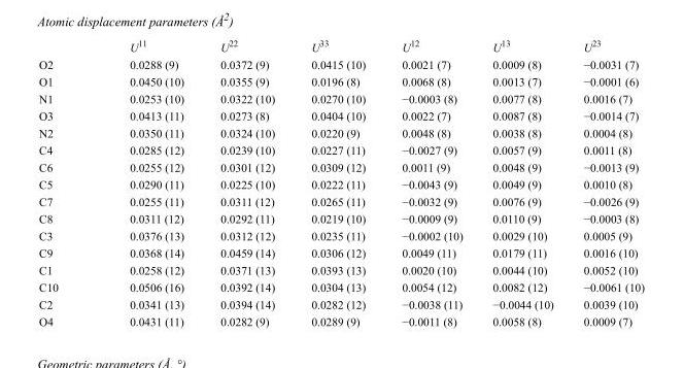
<table><thead><tr><td></td><td>U<sup>11</sup></td><td>U<sup>22</sup></td><td>U<sup>33</sup></td><td>U<sup>12</sup></td><td>U<sup>13</sup></td><td>U<sup>23</sup></td></tr></thead><tbody><tr><td>O2</td><td>0.0288 (9)</td><td>0.0372 (9)</td><td>0.0415 (10)</td><td>0.0021 (7)</td><td>0.0009 (8)</td><td>−0.0031 (7)</td></tr><tr><td>O1</td><td>0.0450 (10)</td><td>0.0355 (9)</td><td>0.0196 (8)</td><td>0.0068 (8)</td><td>0.0013 (7)</td><td>−0.0001 (6)</td></tr><tr><td>N1</td><td>0.0253 (10)</td><td>0.0322 (10)</td><td>0.0270 (10)</td><td>−0.0003 (8)</td><td>0.0077 (8)</td><td>0.0016 (7)</td></tr><tr><td>O3</td><td>0.0413 (11)</td><td>0.0273 (8)</td><td>0.0404 (10)</td><td>0.0022 (7)</td><td>0.0087 (8)</td><td>−0.0014 (7)</td></tr><tr><td>N2</td><td>0.0350 (11)</td><td>0.0324 (10)</td><td>0.0220 (9)</td><td>0.0048 (8)</td><td>0.0038 (8)</td><td>0.0004 (8)</td></tr><tr><td>C4</td><td>0.0285 (12)</td><td>0.0239 (10)</td><td>0.0227 (11)</td><td>−0.0027 (9)</td><td>0.0057 (9)</td><td>0.0011 (8)</td></tr><tr><td>C6</td><td>0.0255 (12)</td><td>0.0301 (12)</td><td>0.0309 (12)</td><td>0.0011 (9)</td><td>0.0048 (9)</td><td>−0.0013 (9)</td></tr><tr><td>C5</td><td>0.0290 (11)</td><td>0.0225 (10)</td><td>0.0222 (11)</td><td>−0.0043 (9)</td><td>0.0049 (9)</td><td>0.0010 (8)</td></tr><tr><td>C7</td><td>0.0255 (11)</td><td>0.0311 (12)</td><td>0.0265 (11)</td><td>−0.0032 (9)</td><td>0.0076 (9)</td><td>−0.0026 (9)</td></tr><tr><td>C8</td><td>0.0311 (12)</td><td>0.0292 (11)</td><td>0.0219 (10)</td><td>−0.0009 (9)</td><td>0.0110 (9)</td><td>−0.0003 (8)</td></tr><tr><td>C3</td><td>0.0376 (13)</td><td>0.0312 (12)</td><td>0.0235 (11)</td><td>−0.0002 (10)</td><td>0.0029 (10)</td><td>0.0005 (9)</td></tr><tr><td>C9</td><td>0.0368 (14)</td><td>0.0459 (14)</td><td>0.0306 (12)</td><td>0.0049 (11)</td><td>0.0179 (11)</td><td>0.0016 (10)</td></tr><tr><td>C1</td><td>0.0258 (12)</td><td>0.0371 (13)</td><td>0.0393 (13)</td><td>0.0020 (10)</td><td>0.0044 (10)</td><td>0.0052 (10)</td></tr><tr><td>C10</td><td>0.0506 (16)</td><td>0.0392 (14)</td><td>0.0304 (13)</td><td>0.0054 (12)</td><td>0.0082 (12)</td><td>−0.0061 (10)</td></tr><tr><td>C2</td><td>0.0341 (13)</td><td>0.0394 (14)</td><td>0.0282 (12)</td><td>−0.0038 (11)</td><td>−0.0044 (10)</td><td>0.0039 (10)</td></tr><tr><td>O4</td><td>0.0431 (11)</td><td>0.0282 (9)</td><td>0.0289 (9)</td><td>−0.0011 (8)</td><td>0.0058 (8)</td><td>0.0009 (7)</td></tr></tbody></table>